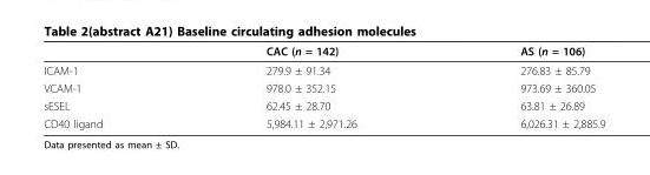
<table><thead><tr><td></td><td>CAC (n = 142)</td><td>AS (n = 106)</td></tr></thead><tbody><tr><td>ICAM-1</td><td>279.9 ± 91.34</td><td>276.83 ± 85.79</td></tr><tr><td>VCAM-1</td><td>978.0 ± 352.15</td><td>973.69 ± 360.05</td></tr><tr><td>sESEL</td><td>62.45 ± 28.70</td><td>63.81 ± 26.89</td></tr><tr><td>CD40 ligand</td><td>5,984.11 ± 2,971.26</td><td>6,026.31 ± 2,885.9</td></tr></tbody></table>